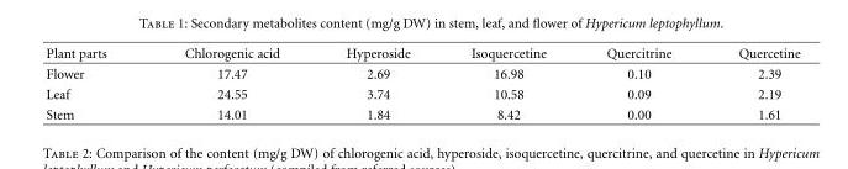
<table><thead><tr><td>Plant parts</td><td>Chlorogenic acid</td><td>Hyperoside</td><td>Isoquercetine</td><td>Quercitrine</td><td>Quercetine</td></tr></thead><tbody><tr><td>Flower</td><td>17.47</td><td>2.69</td><td>16.98</td><td>0.10</td><td>2.39</td></tr><tr><td>Leaf</td><td>24.55</td><td>3.74</td><td>10.58</td><td>0.09</td><td>2.19</td></tr><tr><td>Stem</td><td>14.01</td><td>1.84</td><td>8.42</td><td>0.00</td><td>1.61</td></tr></tbody></table>